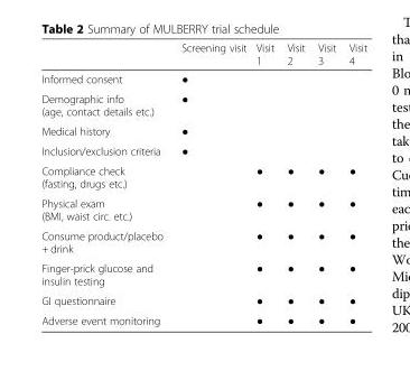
<table><thead><tr><td></td><td>Screening visit</td><td>Visit 1</td><td>Visit 2</td><td>Visit 3</td><td>Visit 4</td></tr></thead><tbody><tr><td>Informed consent</td><td>●</td><td></td><td></td><td></td><td></td></tr><tr><td>Demographic info (age, contact details etc.)</td><td>●</td><td></td><td></td><td></td><td></td></tr><tr><td>Medical history</td><td>●</td><td></td><td></td><td></td><td></td></tr><tr><td>Inclusion/exclusion criteria</td><td>●</td><td></td><td></td><td></td><td></td></tr><tr><td>Compliance check (fasting, drugs etc.)</td><td></td><td>●</td><td>●</td><td>●</td><td>●</td></tr><tr><td>Physical exam (BMI, waist circ. etc.)</td><td></td><td>●</td><td>●</td><td>●</td><td>●</td></tr><tr><td>Consume product/placebo + drink</td><td></td><td>●</td><td>●</td><td>●</td><td>●</td></tr><tr><td>Finger-prick glucose and insulin testing</td><td></td><td>●</td><td>●</td><td>●</td><td>●</td></tr><tr><td>GI questionnaire</td><td></td><td>●</td><td>●</td><td>●</td><td>●</td></tr><tr><td>Adverse event monitoring</td><td></td><td>●</td><td>●</td><td>●</td><td>●</td></tr></tbody></table>